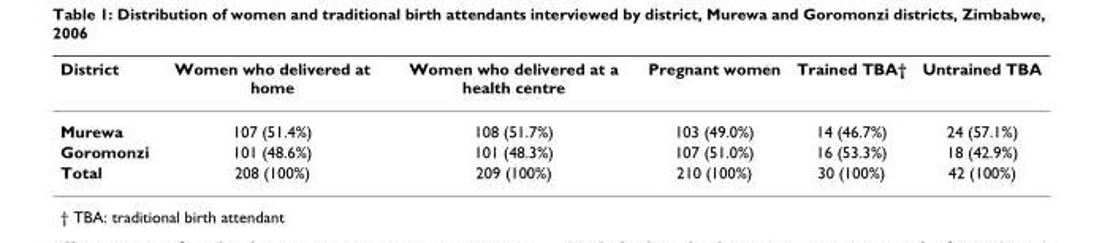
<table><thead><tr><td>District</td><td>Women who delivered at home</td><td>Women who delivered at a health centre</td><td>Pregnant women</td><td>Trained TBA†</td><td>Untrained TBA</td></tr></thead><tbody><tr><td>Murewa</td><td>107 (51.4%)</td><td>108 (51.7%)</td><td>103 (49.0%)</td><td>14 (46.7%)</td><td>24 (57.1%)</td></tr><tr><td>Goromonzi</td><td>101 (48.6%)</td><td>101 (48.3%)</td><td>107 (51.0%)</td><td>16 (53.3%)</td><td>18 (42.9%)</td></tr><tr><td>Total</td><td>208 (100%)</td><td>209 (100%)</td><td>210 (100%)</td><td>30 (100%)</td><td>42 (100%)</td></tr></tbody></table>